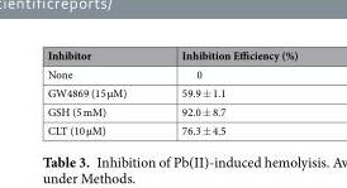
<table><thead><tr><td>Inhibitor</td><td>Inhibition Efficiency (%)</td></tr></thead><tbody><tr><td>None</td><td>0</td></tr><tr><td>GW4869 (15 µM)</td><td>59.9 ± 1.1</td></tr><tr><td>GSH (5 mM)</td><td>92.0 ± 8.7</td></tr><tr><td>CLT (10 µM)</td><td>76.3 ± 4.5</td></tr></tbody></table>